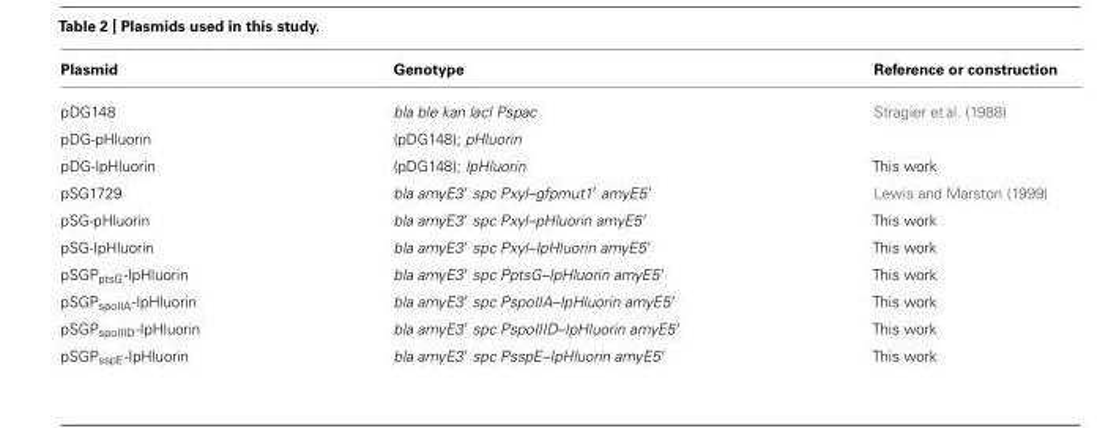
<table><thead><tr><td>Plasmid</td><td>Genotype</td><td>Reference or construction</td></tr></thead><tbody><tr><td>pDG148</td><td>bla ble kan lacI Pspac</td><td>Stragier et al. (1988)</td></tr><tr><td>pDG-pHluorin</td><td>(pDG148); pHluorin</td><td></td></tr><tr><td>pDG-IpHluorin</td><td>(pDG148); IpHluorin</td><td>This work</td></tr><tr><td>pSG1729</td><td>bla amyE3′ spc Pxyl–gfpmut1′ amyE5′</td><td>Lewis and Marston (1999)</td></tr><tr><td>pSG-pHluorin</td><td>bla amyE3′ spc Pxyl–pHluorin amyE5′</td><td>This work</td></tr><tr><td>pSG-IpHluorin</td><td>bla amyE3′ spc Pxyl–IpHluorin amyE5′</td><td>This work</td></tr><tr><td>pSGP<sub>ptsG</sub>-IpHluorin</td><td>bla amyE3′ spc PptsG–IpHluorin amyE5′</td><td>This work</td></tr><tr><td>pSGP<sub>spoIIA</sub>-IpHluorin</td><td>bla amyE3′ spc PspoIIA–IpHluorin amyE5′</td><td>This work</td></tr><tr><td>pSGP<sub>spoIIID</sub>-IpHluorin</td><td>bla amyE3′ spc PspoIIID–IpHluorin amyE5′</td><td>This work</td></tr><tr><td>pSGP<sub>sspE</sub>-IpHluorin</td><td>bla amyE3′ spc PsspE–IpHluorin amyE5′</td><td>This work</td></tr></tbody></table>